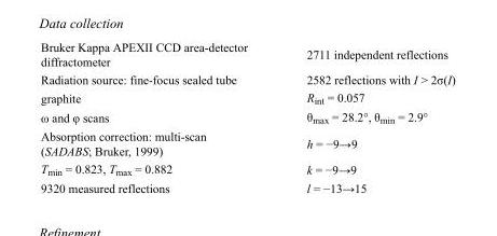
<table><tbody><tr><td>Bruker Kappa APEXII CCD area-detector diffractometer</td><td>2711 independent reflections</td></tr><tr><td>Radiation source: fine-focus sealed tube</td><td>2582 reflections with I &gt; 2σ(I)</td></tr><tr><td>graphite</td><td>R<sub>int</sub> = 0.057</td></tr><tr><td>ω and φ scans</td><td>θ<sub>max</sub> = 28.2°, θ<sub>min</sub> = 2.9°</td></tr><tr><td>Absorption correction: multi-scan (SADABS; Bruker, 1999)</td><td>h = −9→9</td></tr><tr><td>T<sub>min</sub> = 0.823, T<sub>max</sub> = 0.882</td><td>k = −9→9</td></tr><tr><td>9320 measured reflections</td><td>l = −13→15</td></tr></tbody></table>